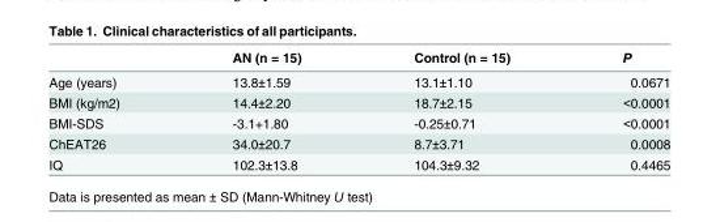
<table><thead><tr><td></td><td>AN (n = 15)</td><td>Control (n = 15)</td><td>P</td></tr></thead><tbody><tr><td>Age (years)</td><td>13.8±1.59</td><td>13.1±1.10</td><td>0.0671</td></tr><tr><td>BMI (kg/m2)</td><td>14.4±2.20</td><td>18.7±2.15</td><td>&lt;0.0001</td></tr><tr><td>BMI-SDS</td><td>-3.1+1.80</td><td>-0.25±0.71</td><td>&lt;0.0001</td></tr><tr><td>ChEAT26</td><td>34.0±20.7</td><td>8.7±3.71</td><td>0.0008</td></tr><tr><td>IQ</td><td>102.3±13.8</td><td>104.3±9.32</td><td>0.4465</td></tr></tbody></table>